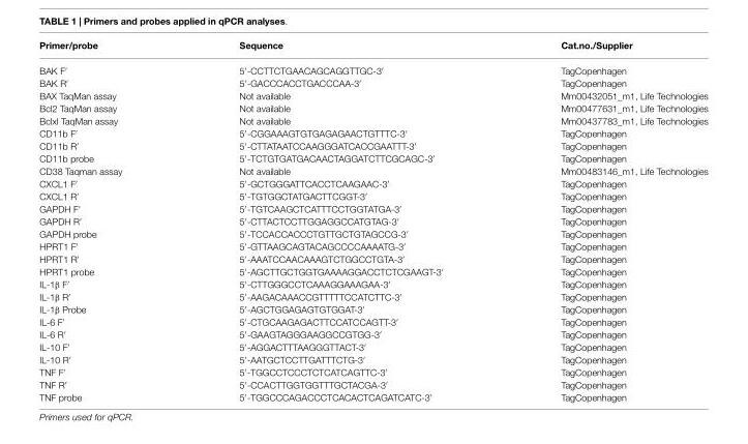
<table><thead><tr><td>Primer/probe</td><td>Sequence</td><td>Cat.no./Supplier</td></tr></thead><tbody><tr><td>BAK F′</td><td>5′-CCTTCTGAACAGCAGGTTGC-3′</td><td>TagCopenhagen</td></tr><tr><td>BAK R′</td><td>5′-GACCCACCTGACCCAA-3′</td><td>TagCopenhagen</td></tr><tr><td>BAX TaqMan assay</td><td>Not available</td><td>Mm00432051_m1, Life Technologies</td></tr><tr><td>Bcl2 TaqMan assay</td><td>Not available</td><td>Mm00477631_m1, Life Technologies</td></tr><tr><td>Bclxl TaqMan assay</td><td>Not available</td><td>Mm00437783_m1, Life Technologies</td></tr><tr><td>CD11b F′</td><td>5′-CGGAAAGTGTGAGAGAACTGTTTC-3′</td><td>TagCopenhagen</td></tr><tr><td>CD11b R′</td><td>5′-CTTATAATCCAAGGGATCACCGAATTT-3′</td><td>TagCopenhagen</td></tr><tr><td>CD11b probe</td><td>5′-TCTGTGATGACAACTAGGATCTTCGCAGC-3′</td><td>TagCopenhagen</td></tr><tr><td>CD38 Taqman assay</td><td>Not available</td><td>Mm00483146_m1, Life Technologies</td></tr><tr><td>CXCL1 F′</td><td>5′-GCTGGGATTCACCTCAAGAAC-3′</td><td>TagCopenhagen</td></tr><tr><td>CXCL1 R′</td><td>5′-TGTGGCTATGACTTCGGT-3′</td><td>TagCopenhagen</td></tr><tr><td>GAPDH F′</td><td>5′-TGTCAAGCTCATTTCCTGGTATGA-3′</td><td>TagCopenhagen</td></tr><tr><td>GAPDH R′</td><td>5′-CTTACTCCTTGGAGGCCATGTAG-3′</td><td>TagCopenhagen</td></tr><tr><td>GAPDH probe</td><td>5′-TCCACCACCCTGTTGCTGTAGCCG-3′</td><td>TagCopenhagen</td></tr><tr><td>HPRT1 F′</td><td>5′-GTTAAGCAGTACAGCCCCAAAATG-3′</td><td>TagCopenhagen</td></tr><tr><td>HPRT1 R′</td><td>5′-AAATCCAACAAAGTCTGGCCTGTA-3′</td><td>TagCopenhagen</td></tr><tr><td>HPRT1 probe</td><td>5′-AGCTTGCTGGTGAAAAGGACCTCTCGAAGT-3′</td><td>TagCopenhagen</td></tr><tr><td>IL-1β F′</td><td>5′-CTTGGGCCTCAAAGGAAAGAA-3′</td><td>TagCopenhagen</td></tr><tr><td>IL-1β R′</td><td>5′-AAGACAAACCGTTTTTCCATCTTC-3′</td><td>TagCopenhagen</td></tr><tr><td>IL-1β Probe</td><td>5′-AGCTGGAGAGTGTGGAT-3′</td><td>TagCopenhagen</td></tr><tr><td>IL-6 F′</td><td>5′-CTGCAAGAGACTTCCATCCAGTT-3′</td><td>TagCopenhagen</td></tr><tr><td>IL-6 R′</td><td>5′-GAAGTAGGGAAGGCCGTGG-3′</td><td>TagCopenhagen</td></tr><tr><td>IL-10 F′</td><td>5′-AGGACTTTAAGGGTTACT-3′</td><td>TagCopenhagen</td></tr><tr><td>IL-10 R′</td><td>5′-AATGCTCCTTGATTTCTG-3′</td><td>TagCopenhagen</td></tr><tr><td>TNF F′</td><td>5′-TGGCCTCCCTCTCATCAGTTC-3′</td><td>TagCopenhagen</td></tr><tr><td>TNF R′</td><td>5′-CCACTTGGTGGTTTGCTACGA-3′</td><td>TagCopenhagen</td></tr><tr><td>TNF probe</td><td>5′-TGGCCCAGACCCTCACACTCAGATCATC-3′</td><td>TagCopenhagen</td></tr></tbody></table>